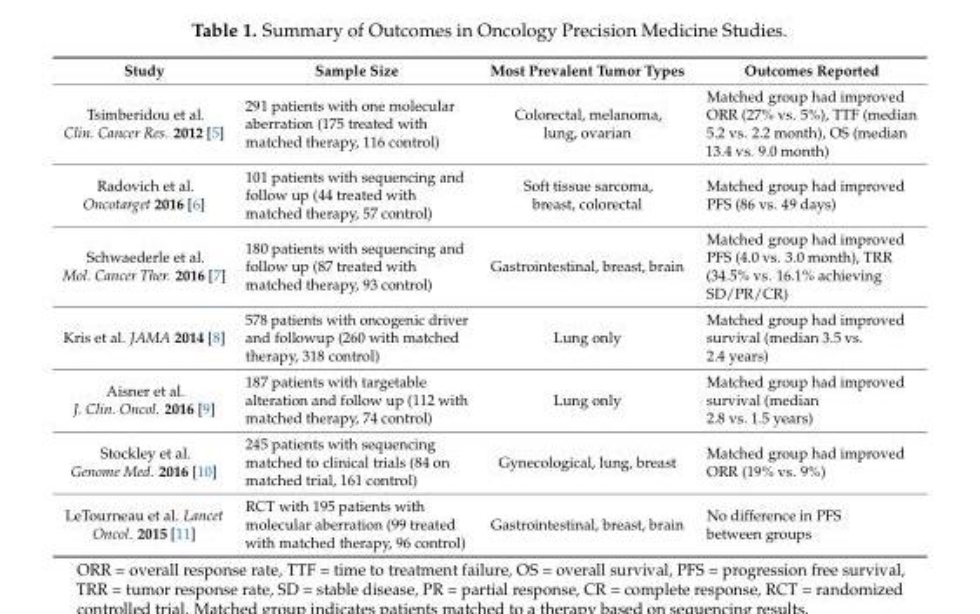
<table><thead><tr><td>Study</td><td>Sample Size</td><td>Most Prevalent Tumor Types</td><td>Outcomes Reported</td></tr></thead><tbody><tr><td>Tsimberidou et al. Clin. Cancer Res. 2012 [5]</td><td>291 patients with one molecular aberration (175 treated with matched therapy, 116 control)</td><td>Colorectal, melanoma, lung, ovarian</td><td>Matched group had improved ORR (27% vs. 5%), TTF (median 5.2 vs. 2.2 month), OS (median 13.4 vs. 9.0 month)</td></tr><tr><td>Radovich et al. Oncotarget 2016 [6]</td><td>101 patients with sequencing and follow up (44 treated with matched therapy, 57 control)</td><td>Soft tissue sarcoma, breast, colorectal</td><td>Matched group had improved PFS (86 vs. 49 days)</td></tr><tr><td>Schwaederle et al. Mol. Cancer Ther. 2016 [7]</td><td>180 patients with sequencing and follow up (87 treated with matched therapy, 93 control)</td><td>Gastrointestinal, breast, brain</td><td>Matched group had improved PFS (4.0 vs. 3.0 month), TRR (34.5% vs. 16.1% achieving SD/PR/CR)</td></tr><tr><td>Kris et al. JAMA 2014 [8]</td><td>578 patients with oncogenic driver and followup (260 with matched therapy, 318 control)</td><td>Lung only</td><td>Matched group had improved survival (median 3.5 vs. 2.4 years)</td></tr><tr><td>Aisner et al. J. Clin. Oncol. 2016 [9]</td><td>187 patients with targetable alteration and follow up (112 with matched therapy, 74 control)</td><td>Lung only</td><td>Matched group had improved survival (median 2.8 vs. 1.5 years)</td></tr><tr><td>Stockley et al. Genome Med. 2016 [10]</td><td>245 patients with sequencing matched to clinical trials (84 on matched trial, 161 control)</td><td>Gynecological, lung, breast</td><td>Matched group had improved ORR (19% vs. 9%)</td></tr><tr><td>LeTourneau et al. Lancet Oncol. 2015 [11]</td><td>RCT with 195 patients with molecular aberration (99 treated with matched therapy, 96 control)</td><td>Gastrointestinal, breast, brain</td><td>No difference in PFS between groups</td></tr></tbody></table>